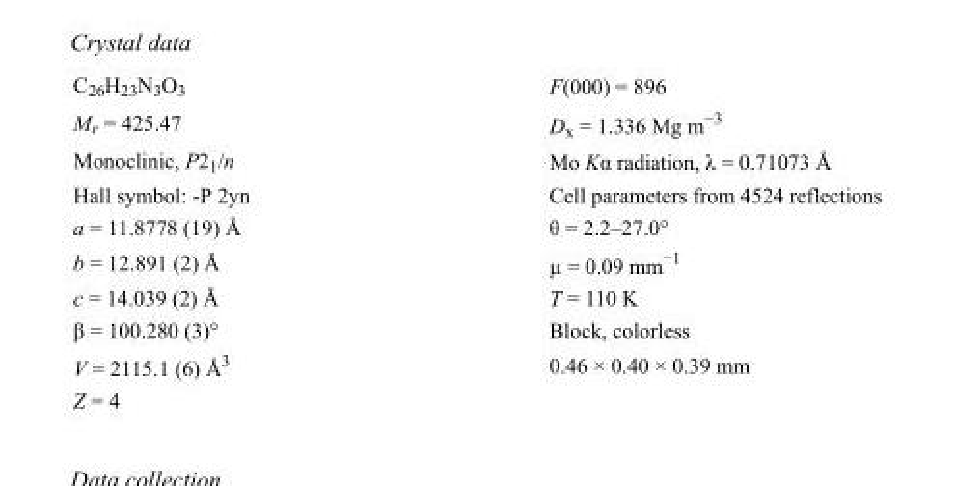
<table><tbody><tr><td>C<sub>26</sub>H<sub>23</sub>N<sub>3</sub>O<sub>3</sub></td><td>F(000) = 896</td></tr><tr><td>M<sub>r</sub> = 425.47</td><td>D<sub>x</sub> = 1.336 Mg m<sup>−3</sup></td></tr><tr><td>Monoclinic, P2<sub>1</sub>/n</td><td>Mo Kα radiation, λ = 0.71073 Å</td></tr><tr><td>Hall symbol: -P 2yn</td><td>Cell parameters from 4524 reflections</td></tr><tr><td>a = 11.8778 (19) Å</td><td>θ = 2.2–27.0°</td></tr><tr><td>b = 12.891 (2) Å</td><td>µ = 0.09 mm<sup>−1</sup></td></tr><tr><td>c = 14.039 (2) Å</td><td>T = 110 K</td></tr><tr><td>β = 100.280 (3)°</td><td>Block, colorless</td></tr><tr><td>V = 2115.1 (6) Å<sup>3</sup></td><td>0.46 × 0.40 × 0.39 mm</td></tr><tr><td>Z = 4</td><td></td></tr></tbody></table>